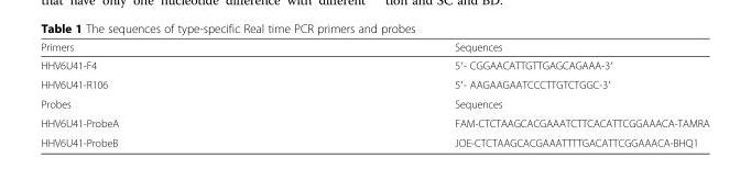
<table><thead><tr><td>Primers</td><td>Sequences</td></tr></thead><tbody><tr><td>HHV6U41-F4</td><td>5′- CGGAACATTGTTGAGCAGAAA-3′</td></tr><tr><td>HHV6U41-R106</td><td>5′- AAGAAGAATCCCTTGTCTGGC-3′</td></tr><tr><td>Probes</td><td>Sequences</td></tr><tr><td>HHV6U41-ProbeA</td><td>FAM-CTCTAAGCACGAAATCTTCACATTCGGAAACA-TAMRA</td></tr><tr><td>HHV6U41-ProbeB</td><td>JOE-CTCTAAGCACGAAATTTTGACATTCGGAAACA-BHQ1</td></tr></tbody></table>